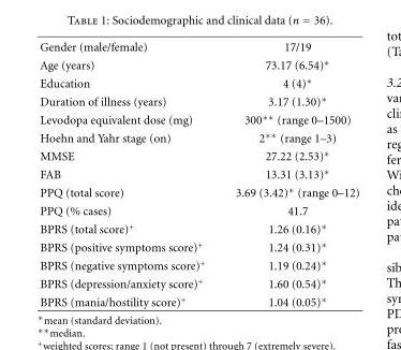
<table><tbody><tr><td>Gender (male/female)</td><td>17/19</td></tr><tr><td>Age (years)</td><td>73.17 (6.54)∗</td></tr><tr><td>Education</td><td>4 (4)∗</td></tr><tr><td>Duration of illness (years)</td><td>3.17 (1.30)∗</td></tr><tr><td>Levodopa equivalent dose (mg)</td><td>300∗∗ (range 0–1500)</td></tr><tr><td>Hoehn and Yahr stage (on)</td><td>2∗∗ (range 1–3)</td></tr><tr><td>MMSE</td><td>27.22 (2.53)∗</td></tr><tr><td>FAB</td><td>13.31 (3.13)∗</td></tr><tr><td>PPQ (total score)</td><td>3.69 (3.42)∗ (range 0–12)</td></tr><tr><td>PPQ (% cases)</td><td>41.7</td></tr><tr><td>BPRS (total score)<sup>+</sup></td><td>1.26 (0.16)∗</td></tr><tr><td>BPRS (positive symptoms score)<sup>+</sup></td><td>1.24 (0.31)∗</td></tr><tr><td>BPRS (negative symptoms score)<sup>+</sup></td><td>1.19 (0.24)∗</td></tr><tr><td>BPRS (depression/anxiety score)<sup>+</sup></td><td>1.60 (0.54)∗</td></tr><tr><td>BPRS (mania/hostility score)<sup>+</sup></td><td>1.04 (0.05)∗</td></tr></tbody></table>